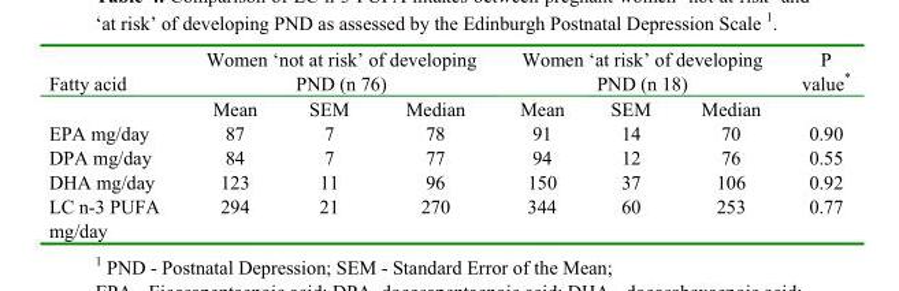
<table><thead><tr><td rowspan="2">Fatty acid</td><td colspan="3">Women ‘not at risk’ of developing PND (n 76)</td><td colspan="3">Women ‘at risk’ of developing PND (n 18)</td><td rowspan="2">P value*</td></tr><tr><td>Mean</td><td>SEM</td><td>Median</td><td>Mean</td><td>SEM</td><td>Median</td></tr></thead><tbody><tr><td>EPA mg/day</td><td>87</td><td>7</td><td>78</td><td>91</td><td>14</td><td>70</td><td>0.90</td></tr><tr><td>DPA mg/day</td><td>84</td><td>7</td><td>77</td><td>94</td><td>12</td><td>76</td><td>0.55</td></tr><tr><td>DHA mg/day</td><td>123</td><td>11</td><td>96</td><td>150</td><td>37</td><td>106</td><td>0.92</td></tr><tr><td>LC n-3 PUFA mg/day</td><td>294</td><td>21</td><td>270</td><td>344</td><td>60</td><td>253</td><td>0.77</td></tr></tbody></table>